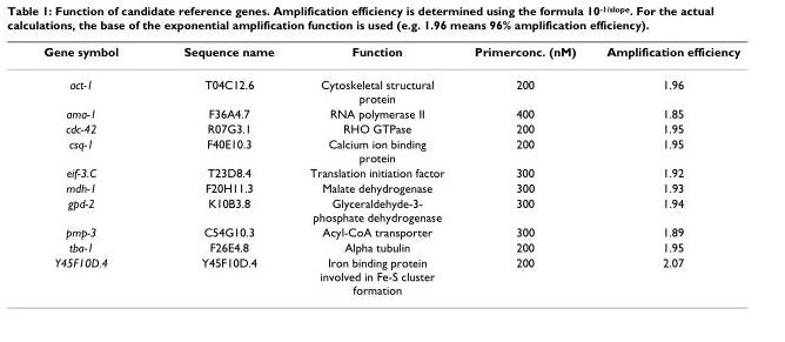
<table><thead><tr><td>Gene symbol</td><td>Sequence name</td><td>Function</td><td>Primerconc. (nM)</td><td>Amplification efficiency</td></tr></thead><tbody><tr><td>act-1</td><td>T04C12.6</td><td>Cytoskeletal structural protein</td><td>200</td><td>1.96</td></tr><tr><td>ama-1</td><td>F36A4.7</td><td>RNA polymerase II</td><td>400</td><td>1.85</td></tr><tr><td>cdc-42</td><td>R07G3.1</td><td>RHO GTPase</td><td>200</td><td>1.95</td></tr><tr><td>csq-1</td><td>F40E10.3</td><td>Calcium ion binding protein</td><td>200</td><td>1.95</td></tr><tr><td>eif-3.C</td><td>T23D8.4</td><td>Translation initiation factor</td><td>300</td><td>1.92</td></tr><tr><td>mdh-1</td><td>F20H11.3</td><td>Malate dehydrogenase</td><td>300</td><td>1.93</td></tr><tr><td>gpd-2</td><td>K10B3.8</td><td>Glyceraldehyde-3- phosphate dehydrogenase</td><td>300</td><td>1.94</td></tr><tr><td>pmp-3</td><td>C54G10.3</td><td>Acyl-CoA transporter</td><td>300</td><td>1.89</td></tr><tr><td>tba-1</td><td>F26E4.8</td><td>Alpha tubulin</td><td>200</td><td>1.95</td></tr><tr><td>Y45F10D.4</td><td>Y45F10D.4</td><td>Iron binding protein involved in Fe-S cluster formation</td><td>200</td><td>2.07</td></tr></tbody></table>